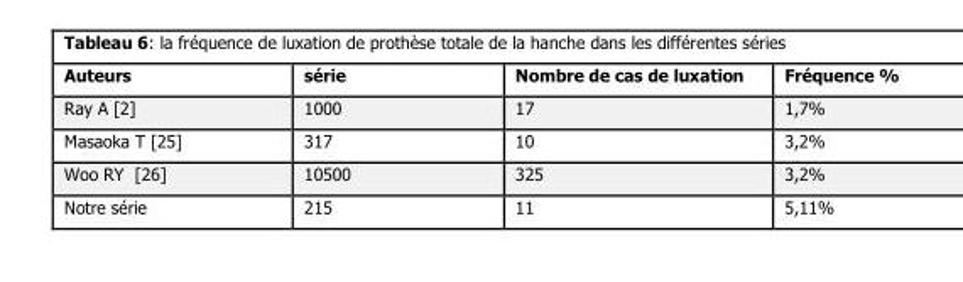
<table><thead><tr><td>Auteurs</td><td>série</td><td>Nombre de cas de luxation</td><td>Fréquence %</td></tr></thead><tbody><tr><td>Ray A [2]</td><td>1000</td><td>17</td><td>1,7%</td></tr><tr><td>Masaoka T [25]</td><td>317</td><td>10</td><td>3,2%</td></tr><tr><td>Woo RY [26]</td><td>10500</td><td>325</td><td>3,2%</td></tr><tr><td>Notre série</td><td>215</td><td>11</td><td>5,11%</td></tr></tbody></table>